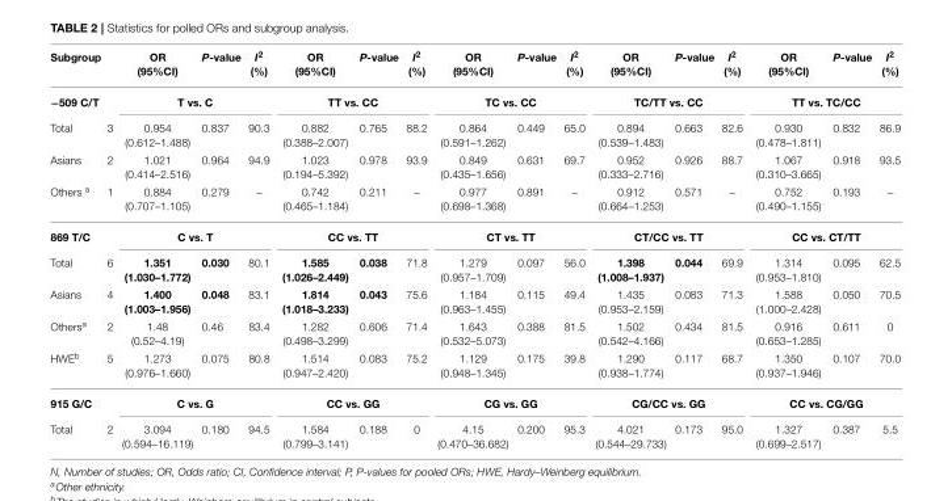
<table><thead><tr><td>Subgroup</td><td></td><td>OR (95%CI)</td><td>P-value</td><td>I<sup>2</sup> (%)</td><td>OR (95%CI)</td><td>P-value</td><td>I<sup>2</sup> (%)</td><td>OR (95%CI)</td><td>P-value</td><td>I<sup>2</sup> (%)</td><td>OR (95%CI)</td><td>P-value</td><td>I<sup>2</sup> (%)</td><td>OR (95%CI)</td><td>P-value</td><td>I<sup>2</sup> (%)</td></tr></thead><tbody><tr><td>−509 C/T</td><td></td><td colspan="3">T vs. C</td><td colspan="3">TT vs. CC</td><td colspan="3">TC vs. CC</td><td colspan="3">TC/TT vs. CC</td><td colspan="3">TT vs. TC/CC</td></tr><tr><td>Total</td><td>3</td><td>0.954 (0.612–1.488)</td><td>0.837</td><td>90.3</td><td>0.882 (0.388–2.007)</td><td>0.765</td><td>88.2</td><td>0.864 (0.591–1.262)</td><td>0.449</td><td>65.0</td><td>0.894 (0.539–1.483)</td><td>0.663</td><td>82.6</td><td>0.930 (0.478–1.811)</td><td>0.832</td><td>86.9</td></tr><tr><td>Asians</td><td>2</td><td>1.021 (0.414–2.516)</td><td>0.964</td><td>94.9</td><td>1.023 (0.194–5.392)</td><td>0.978</td><td>93.9</td><td>0.849 (0.435–1.656)</td><td>0.631</td><td>69.7</td><td>0.952 (0.333–2.716)</td><td>0.926</td><td>88.7</td><td>1.067 (0.310–3.665)</td><td>0.918</td><td>93.5</td></tr><tr><td>Others <sup>a</sup></td><td>1</td><td>0.884 (0.707–1.105)</td><td>0.279</td><td>–</td><td>0.742 (0.465–1.184)</td><td>0.211</td><td>–</td><td>0.977 (0.698–1.368)</td><td>0.891</td><td>–</td><td>0.912 (0.664–1.253)</td><td>0.571</td><td>–</td><td>0.752 (0.490–1.155)</td><td>0.193</td><td>–</td></tr><tr><td>869 T/C</td><td></td><td colspan="3">C vs. T</td><td colspan="3">CC vs. TT</td><td colspan="3">CT vs. TT</td><td colspan="3">CT/CC vs. TT</td><td colspan="3">CC vs. CT/TT</td></tr><tr><td>Total</td><td>6</td><td>1.351 (1.030–1.772)</td><td>0.030</td><td>80.1</td><td>1.585 (1.026–2.449)</td><td>0.038</td><td>71.8</td><td>1.279 (0.957–1.709)</td><td>0.097</td><td>56.0</td><td>1.398 (1.008–1.937)</td><td>0.044</td><td>69.9</td><td>1.314 (0.953–1.810)</td><td>0.095</td><td>62.5</td></tr><tr><td>Asians</td><td>4</td><td>1.400 (1.003–1.956)</td><td>0.048</td><td>83.1</td><td>1.814 (1.018–3.233)</td><td>0.043</td><td>75.6</td><td>1.184 (0.963–1.455)</td><td>0.115</td><td>49.4</td><td>1.435 (0.953–2.159)</td><td>0.083</td><td>71.3</td><td>1.588 (1.000–2.428)</td><td>0.050</td><td>70.5</td></tr><tr><td>Others<sup>a</sup></td><td>2</td><td>1.48 (0.52–4.19)</td><td>0.46</td><td>83.4</td><td>1.282 (0.498–3.299)</td><td>0.606</td><td>71.4</td><td>1.643 (0.532–5.073)</td><td>0.388</td><td>81.5</td><td>1.502 (0.542–4.166)</td><td>0.434</td><td>81.5</td><td>0.916 (0.653–1.285)</td><td>0.611</td><td>0</td></tr><tr><td>HWE<sup>b</sup></td><td>5</td><td>1.273 (0.976–1.660)</td><td>0.075</td><td>80.8</td><td>1.514 (0.947–2.420)</td><td>0.083</td><td>75.2</td><td>1.129 (0.948–1.345)</td><td>0.175</td><td>39.8</td><td>1.290 (0.938–1.774)</td><td>0.117</td><td>68.7</td><td>1.350 (0.937–1.946)</td><td>0.107</td><td>70.0</td></tr><tr><td>915 G/C</td><td></td><td colspan="3">C vs. G</td><td colspan="3">CC vs. GG</td><td colspan="3">CG vs. GG</td><td colspan="3">CG/CC vs. GG</td><td colspan="3">CC vs. CG/GG</td></tr><tr><td>Total</td><td>2</td><td>3.094 (0.594–16.119)</td><td>0.180</td><td>94.5</td><td>1.584 (0.799–3.141)</td><td>0.188</td><td>0</td><td>4.15 (0.470–36.682)</td><td>0.200</td><td>95.3</td><td>4.021 (0.544–29.733)</td><td>0.173</td><td>95.0</td><td>1.327 (0.699–2.517)</td><td>0.387</td><td>5.5</td></tr></tbody></table>